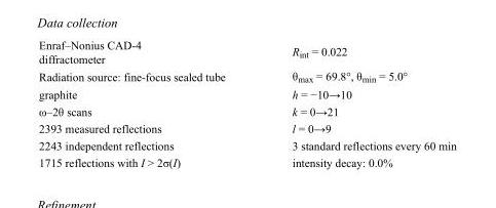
<table><tbody><tr><td>Enraf–Nonius CAD-4 diffractometer</td><td>R<sub>int</sub> = 0.022</td></tr><tr><td>Radiation source: fine-focus sealed tube</td><td>θ<sub>max</sub> = 69.8°, θ<sub>min</sub> = 5.0°</td></tr><tr><td>graphite</td><td>h = −10→10</td></tr><tr><td>ω–2θ scans</td><td>k = 0→21</td></tr><tr><td>2393 measured reflections</td><td>l = 0→9</td></tr><tr><td>2243 independent reflections</td><td>3 standard reflections every 60 min</td></tr><tr><td>1715 reflections with I &gt; 2σ(I)</td><td>intensity decay: 0.0%</td></tr></tbody></table>